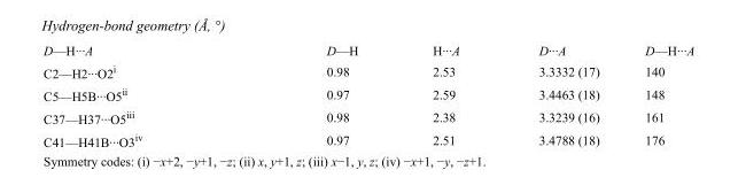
<table><tbody><tr><td>D—H···A</td><td>D—H</td><td>H···A</td><td>D···A</td><td>D—H···A</td></tr><tr><td>C2—H2···O2<sup>i</sup></td><td>0.98</td><td>2.53</td><td>3.3332 (17)</td><td>140</td></tr><tr><td>C5—H5B···O5<sup>ii</sup></td><td>0.97</td><td>2.59</td><td>3.4463 (18)</td><td>148</td></tr><tr><td>C37—H37···O5<sup>iii</sup></td><td>0.98</td><td>2.38</td><td>3.3239 (16)</td><td>161</td></tr><tr><td>C41—H41B···O3<sup>iv</sup></td><td>0.97</td><td>2.51</td><td>3.4788 (18)</td><td>176</td></tr></tbody></table>